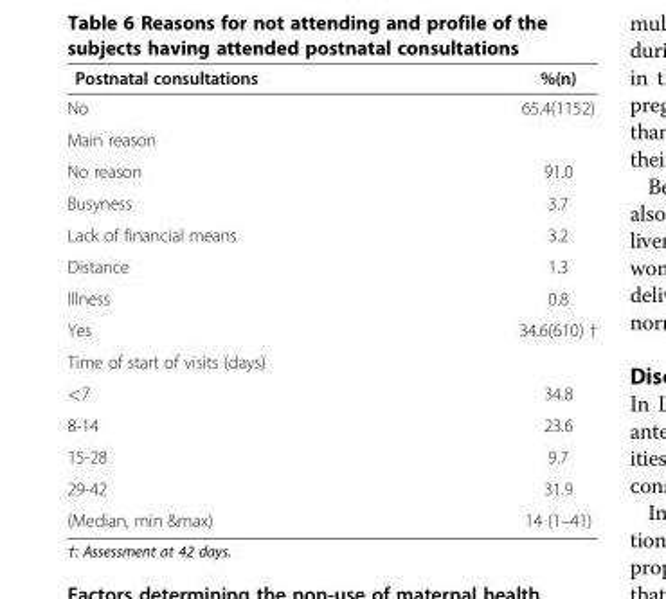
<table><thead><tr><td>Postnatal consultations</td><td>%(n)</td></tr></thead><tbody><tr><td>No</td><td>65.4(1152)</td></tr><tr><td colspan="2">Main reason</td></tr><tr><td>No reason</td><td>91.0</td></tr><tr><td>Busyness</td><td>3.7</td></tr><tr><td>Lack of financial means</td><td>3.2</td></tr><tr><td>Distance</td><td>1.3</td></tr><tr><td>Illness</td><td>0.8</td></tr><tr><td>Yes</td><td>34.6(610) †</td></tr><tr><td colspan="2">Time of start of visits (days)</td></tr><tr><td>&lt;7</td><td>34.8</td></tr><tr><td>8-14</td><td>23.6</td></tr><tr><td>15-28</td><td>9.7</td></tr><tr><td>29-42</td><td>31.9</td></tr><tr><td>(Median, min &amp;max)</td><td>14 (1–41)</td></tr></tbody></table>